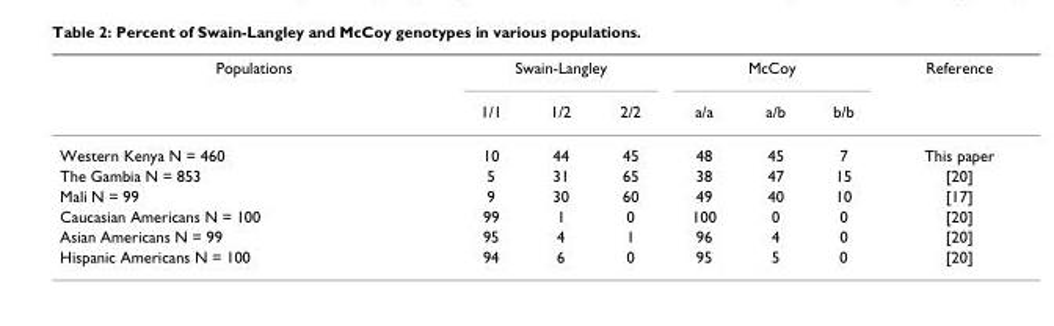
<table><thead><tr><td rowspan="2">Populations</td><td colspan="3">Swain-Langley</td><td colspan="3">McCoy</td><td rowspan="2">Reference</td></tr><tr><td>1/1</td><td>1/2</td><td>2/2</td><td>a/a</td><td>a/b</td><td>b/b</td></tr></thead><tbody><tr><td>Western Kenya N = 460</td><td>10</td><td>44</td><td>45</td><td>48</td><td>45</td><td>7</td><td>This paper</td></tr><tr><td>The Gambia N = 853</td><td>5</td><td>31</td><td>65</td><td>38</td><td>47</td><td>15</td><td>[20]</td></tr><tr><td>Mali N = 99</td><td>9</td><td>30</td><td>60</td><td>49</td><td>40</td><td>10</td><td>[17]</td></tr><tr><td>Caucasian Americans N = 100</td><td>99</td><td>1</td><td>0</td><td>100</td><td>0</td><td>0</td><td>[20]</td></tr><tr><td>Asian Americans N = 99</td><td>95</td><td>4</td><td>1</td><td>96</td><td>4</td><td>0</td><td>[20]</td></tr><tr><td>Hispanic Americans N = 100</td><td>94</td><td>6</td><td>0</td><td>95</td><td>5</td><td>0</td><td>[20]</td></tr></tbody></table>